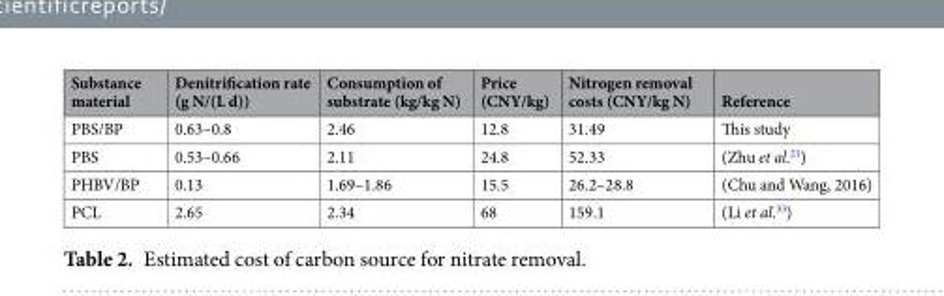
<table><thead><tr><td>Substance material</td><td>Denitrification rate (g N/(L d))</td><td>Consumption of substrate (kg/kg N)</td><td>Price (CNY/kg)</td><td>Nitrogen removal costs (CNY/kg N)</td><td>Reference</td></tr></thead><tbody><tr><td>PBS/BP</td><td>0.63–0.8</td><td>2.46</td><td>12.8</td><td>31.49</td><td>This study</td></tr><tr><td>PBS</td><td>0.53–0.66</td><td>2.11</td><td>24.8</td><td>52.33</td><td>(Zhu et al.<sup>21</sup>)</td></tr><tr><td>PHBV/BP</td><td>0.13</td><td>1.69–1.86</td><td>15.5</td><td>26.2–28.8</td><td>(Chu and Wang, 2016)</td></tr><tr><td>PCL</td><td>2.65</td><td>2.34</td><td>68</td><td>159.1</td><td>(Li et al.<sup>33</sup>)</td></tr></tbody></table>